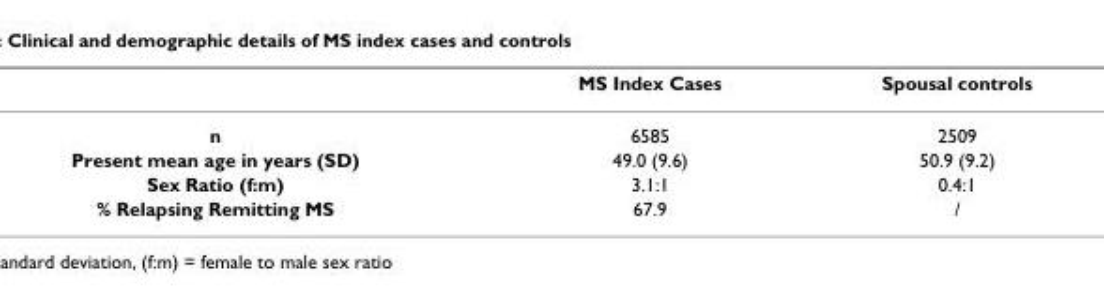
<table><thead><tr><td></td><td>MS Index Cases</td><td>Spousal controls</td></tr></thead><tbody><tr><td>n</td><td>6585</td><td>2509</td></tr><tr><td>Present mean age in years (SD)</td><td>49.0 (9.6)</td><td>50.9 (9.2)</td></tr><tr><td>Sex Ratio (f:m)</td><td>3.1:1</td><td>0.4:1</td></tr><tr><td>% Relapsing Remitting MS</td><td>67.9</td><td>/</td></tr></tbody></table>